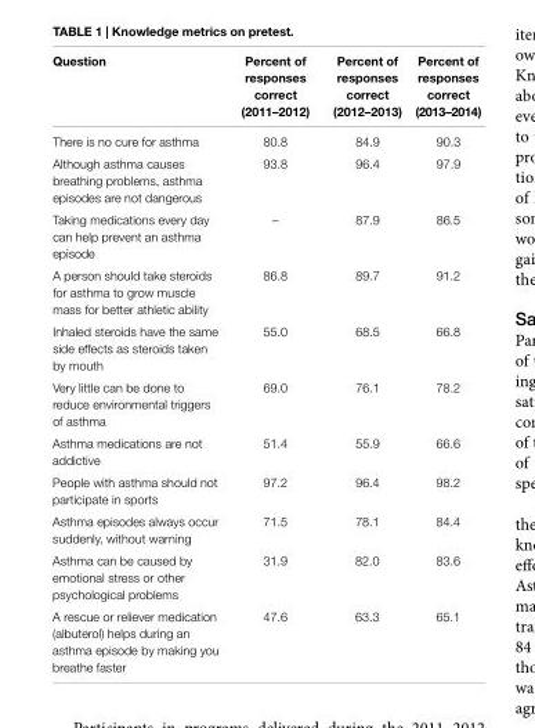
<table><thead><tr><td>Question</td><td>Percent of responses correct (2011–2012)</td><td>Percent of responses correct (2012–2013)</td><td>Percent of responses correct (2013–2014)</td></tr></thead><tbody><tr><td>There is no cure for asthma</td><td>80.8</td><td>84.9</td><td>90.3</td></tr><tr><td>Although asthma causes breathing problems, asthma episodes are not dangerous</td><td>93.8</td><td>96.4</td><td>97.9</td></tr><tr><td>Taking medications every day can help prevent an asthma episode</td><td>–</td><td>87.9</td><td>86.5</td></tr><tr><td>A person should take steroids for asthma to grow muscle mass for better athletic ability</td><td>86.8</td><td>89.7</td><td>91.2</td></tr><tr><td>Inhaled steroids have the same side effects as steroids taken by mouth</td><td>55.0</td><td>68.5</td><td>66.8</td></tr><tr><td>Very little can be done to reduce environmental triggers of asthma</td><td>69.0</td><td>76.1</td><td>78.2</td></tr><tr><td>Asthma medications are not addictive</td><td>51.4</td><td>55.9</td><td>66.6</td></tr><tr><td>People with asthma should not participate in sports</td><td>97.2</td><td>96.4</td><td>98.2</td></tr><tr><td>Asthma episodes always occur suddenly, without warning</td><td>71.5</td><td>78.1</td><td>84.4</td></tr><tr><td>Asthma can be caused by emotional stress or other psychological problems</td><td>31.9</td><td>82.0</td><td>83.6</td></tr><tr><td>A rescue or reliever medication (albuterol) helps during an asthma episode by making you breathe faster</td><td>47.6</td><td>63.3</td><td>65.1</td></tr></tbody></table>